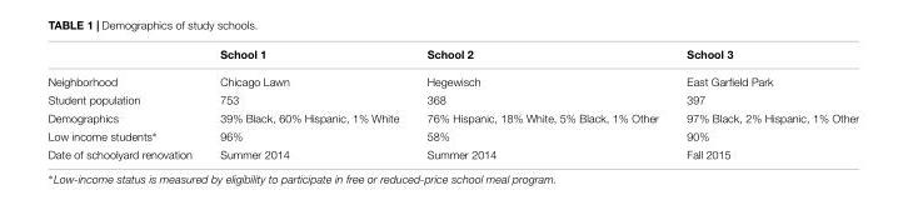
<table><thead><tr><td></td><td>School 1</td><td>School 2</td><td>School 3</td></tr></thead><tbody><tr><td>Neighborhood</td><td>Chicago Lawn</td><td>Hegewisch</td><td>East Garfield Park</td></tr><tr><td>Student population</td><td>753</td><td>368</td><td>397</td></tr><tr><td>Demographics</td><td>39% Black, 60% Hispanic, 1% White</td><td>76% Hispanic, 18% White, 5% Black, 1% Other</td><td>97% Black, 2% Hispanic, 1% Other</td></tr><tr><td>Low income students∗</td><td>96%</td><td>58%</td><td>90%</td></tr><tr><td>Date of schoolyard renovation</td><td>Summer 2014</td><td>Summer 2014</td><td>Fall 2015</td></tr></tbody></table>